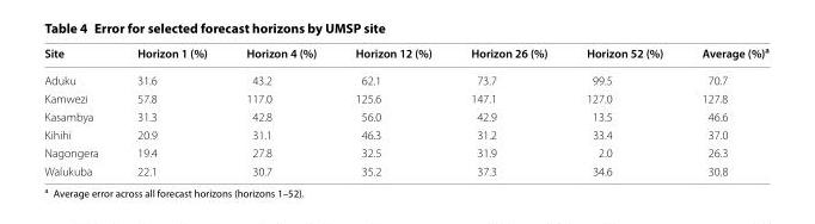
<table><thead><tr><td>Site</td><td>Horizon 1 (%)</td><td>Horizon 4 (%)</td><td>Horizon 12 (%)</td><td>Horizon 26 (%)</td><td>Horizon 52 (%)</td><td>Average (%)<sup>a</sup></td></tr></thead><tbody><tr><td>Aduku</td><td>31.6</td><td>43.2</td><td>62.1</td><td>73.7</td><td>99.5</td><td>70.7</td></tr><tr><td>Kamwezi</td><td>57.8</td><td>117.0</td><td>125.6</td><td>147.1</td><td>127.0</td><td>127.8</td></tr><tr><td>Kasambya</td><td>31.3</td><td>42.8</td><td>56.0</td><td>42.9</td><td>13.5</td><td>46.6</td></tr><tr><td>Kihihi</td><td>20.9</td><td>31.1</td><td>46.3</td><td>31.2</td><td>33.4</td><td>37.0</td></tr><tr><td>Nagongera</td><td>19.4</td><td>27.8</td><td>32.5</td><td>31.9</td><td>2.0</td><td>26.3</td></tr><tr><td>Walukuba</td><td>22.1</td><td>30.7</td><td>35.2</td><td>37.3</td><td>34.6</td><td>30.8</td></tr></tbody></table>